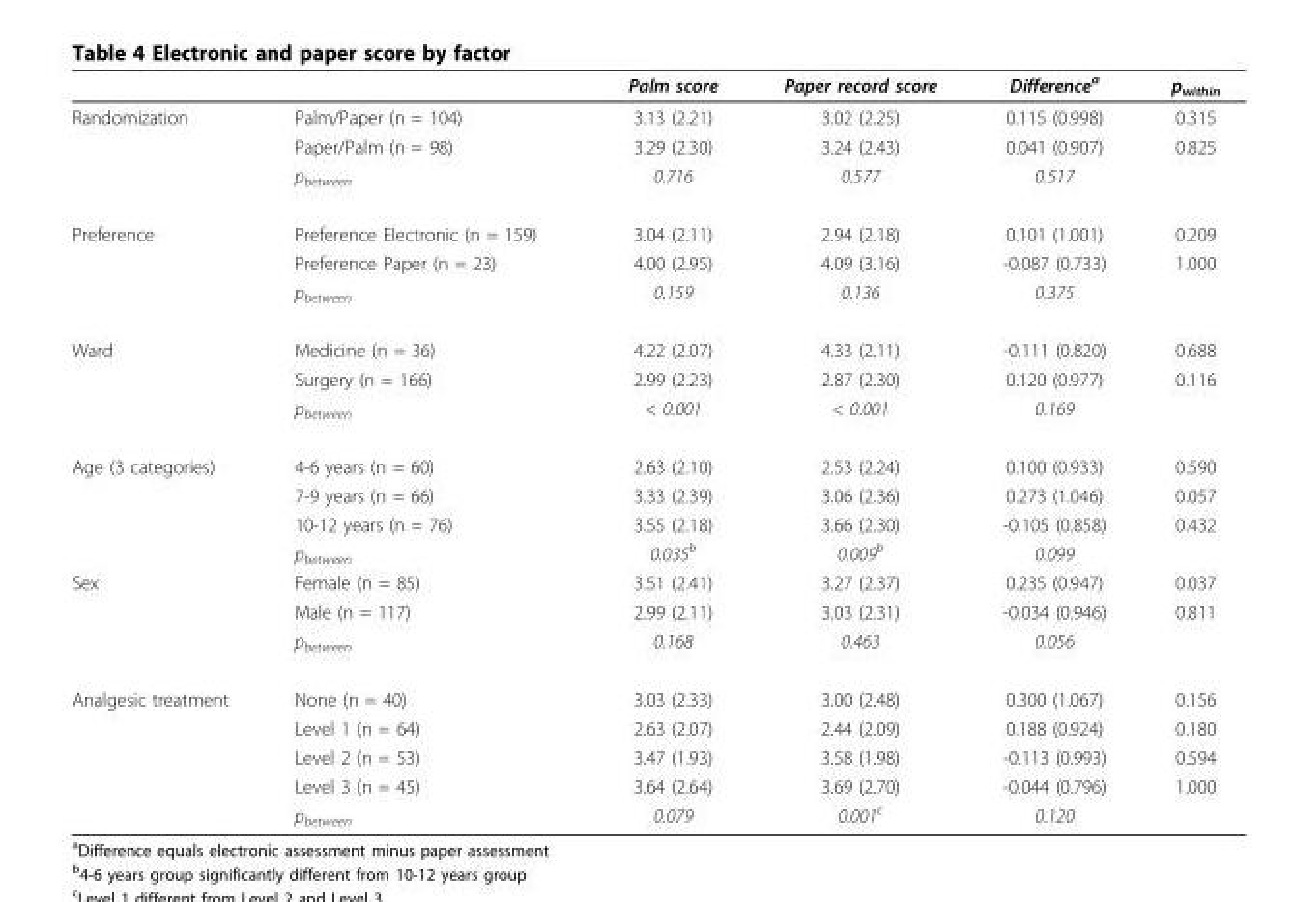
<table><thead><tr><td></td><td></td><td>Palm score</td><td>Paper record score</td><td>Difference<sup>a</sup></td><td>p<sub>within</sub></td></tr></thead><tbody><tr><td rowspan="3">Randomization</td><td>Palm/Paper (n = 104)</td><td>3.13 (2.21)</td><td>3.02 (2.25)</td><td>0.115 (0.998)</td><td>0.315</td></tr><tr><td>Paper/Palm (n = 98)</td><td>3.29 (2.30)</td><td>3.24 (2.43)</td><td>0.041 (0.907)</td><td>0.825</td></tr><tr><td>p<sub>between</sub></td><td>0.716</td><td>0.577</td><td>0.517</td><td></td></tr><tr><td rowspan="3">Preference</td><td>Preference Electronic (n = 159)</td><td>3.04 (2.11)</td><td>2.94 (2.18)</td><td>0.101 (1.001)</td><td>0.209</td></tr><tr><td>Preference Paper (n = 23)</td><td>4.00 (2.95)</td><td>4.09 (3.16)</td><td>-0.087 (0.733)</td><td>1.000</td></tr><tr><td>p<sub>between</sub></td><td>0.159</td><td>0.136</td><td>0.375</td><td></td></tr><tr><td rowspan="3">Ward</td><td>Medicine (n = 36)</td><td>4.22 (2.07)</td><td>4.33 (2.11)</td><td>-0.111 (0.820)</td><td>0.688</td></tr><tr><td>Surgery (n = 166)</td><td>2.99 (2.23)</td><td>2.87 (2.30)</td><td>0.120 (0.977)</td><td>0.116</td></tr><tr><td>p<sub>between</sub></td><td>&lt; 0.001</td><td>&lt; 0.001</td><td>0.169</td><td></td></tr><tr><td rowspan="4">Age (3 categories)</td><td>4-6 years (n = 60)</td><td>2.63 (2.10)</td><td>2.53 (2.24)</td><td>0.100 (0.933)</td><td>0.590</td></tr><tr><td>7-9 years (n = 66)</td><td>3.33 (2.39)</td><td>3.06 (2.36)</td><td>0.273 (1.046)</td><td>0.057</td></tr><tr><td>10-12 years (n = 76)</td><td>3.55 (2.18)</td><td>3.66 (2.30)</td><td>-0.105 (0.858)</td><td>0.432</td></tr><tr><td>p<sub>between</sub></td><td>0.035<sup>b</sup></td><td>0.009<sup>b</sup></td><td>0.099</td><td></td></tr><tr><td rowspan="3">Sex</td><td>Female (n = 85)</td><td>3.51 (2.41)</td><td>3.27 (2.37)</td><td>0.235 (0.947)</td><td>0.037</td></tr><tr><td>Male (n = 117)</td><td>2.99 (2.11)</td><td>3.03 (2.31)</td><td>-0.034 (0.946)</td><td>0.811</td></tr><tr><td>p<sub>between</sub></td><td>0.168</td><td>0.463</td><td>0.056</td><td></td></tr><tr><td rowspan="5">Analgesic treatment</td><td>None (n = 40)</td><td>3.03 (2.33)</td><td>3.00 (2.48)</td><td>0.300 (1.067)</td><td>0.156</td></tr><tr><td>Level 1 (n = 64)</td><td>2.63 (2.07)</td><td>2.44 (2.09)</td><td>0.188 (0.924)</td><td>0.180</td></tr><tr><td>Level 2 (n = 53)</td><td>3.47 (1.93)</td><td>3.58 (1.98)</td><td>-0.113 (0.993)</td><td>0.594</td></tr><tr><td>Level 3 (n = 45)</td><td>3.64 (2.64)</td><td>3.69 (2.70)</td><td>-0.044 (0.796)</td><td>1.000</td></tr><tr><td>p<sub>between</sub></td><td>0.079</td><td>0.001<sup>c</sup></td><td>0.120</td><td></td></tr></tbody></table>